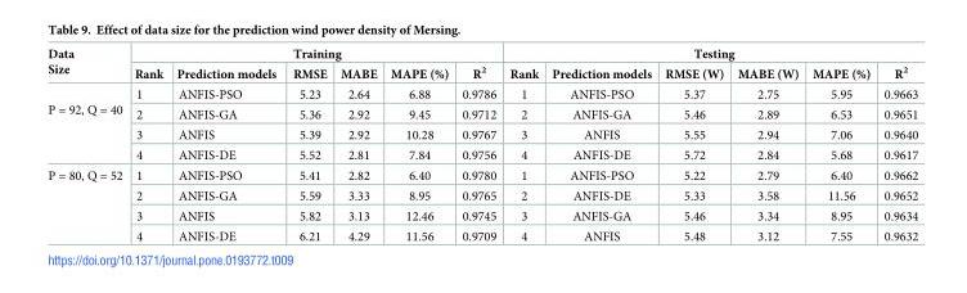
<table><thead><tr><td rowspan="2">Data Size</td><td colspan="6">Training</td><td colspan="6">Testing</td></tr><tr><td>Rank</td><td>Prediction models</td><td>RMSE</td><td>MABE</td><td>MAPE (%)</td><td>R<sup>2</sup></td><td>Rank</td><td>Prediction models</td><td>RMSE (W)</td><td>MABE (W)</td><td>MAPE (%)</td><td>R<sup>2</sup></td></tr></thead><tbody><tr><td rowspan="4">P = 92, Q = 40</td><td>1</td><td>ANFIS-PSO</td><td>5.23</td><td>2.64</td><td>6.88</td><td>0.9786</td><td>1</td><td>ANFIS-PSO</td><td>5.37</td><td>2.75</td><td>5.95</td><td>0.9663</td></tr><tr><td>2</td><td>ANFIS-GA</td><td>5.36</td><td>2.92</td><td>9.45</td><td>0.9712</td><td>2</td><td>ANFIS-GA</td><td>5.46</td><td>2.89</td><td>6.53</td><td>0.9651</td></tr><tr><td>3</td><td>ANFIS</td><td>5.39</td><td>2.92</td><td>10.28</td><td>0.9767</td><td>3</td><td>ANFIS</td><td>5.55</td><td>2.94</td><td>7.06</td><td>0.9640</td></tr><tr><td>4</td><td>ANFIS-DE</td><td>5.52</td><td>2.81</td><td>7.84</td><td>0.9756</td><td>4</td><td>ANFIS-DE</td><td>5.72</td><td>2.84</td><td>5.68</td><td>0.9617</td></tr><tr><td rowspan="4">P = 80, Q = 52</td><td>1</td><td>ANFIS-PSO</td><td>5.41</td><td>2.82</td><td>6.40</td><td>0.9780</td><td>1</td><td>ANFIS-PSO</td><td>5.22</td><td>2.79</td><td>6.40</td><td>0.9662</td></tr><tr><td>2</td><td>ANFIS-GA</td><td>5.59</td><td>3.33</td><td>8.95</td><td>0.9765</td><td>2</td><td>ANFIS-DE</td><td>5.33</td><td>3.58</td><td>11.56</td><td>0.9652</td></tr><tr><td>3</td><td>ANFIS</td><td>5.82</td><td>3.13</td><td>12.46</td><td>0.9745</td><td>3</td><td>ANFIS-GA</td><td>5.46</td><td>3.34</td><td>8.95</td><td>0.9634</td></tr><tr><td>4</td><td>ANFIS-DE</td><td>6.21</td><td>4.29</td><td>11.56</td><td>0.9709</td><td>4</td><td>ANFIS</td><td>5.48</td><td>3.12</td><td>7.55</td><td>0.9632</td></tr></tbody></table>